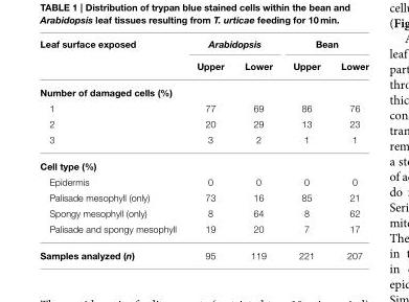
<table><thead><tr><td rowspan="2">Leaf surface exposed</td><td colspan="2">Arabidopsis</td><td colspan="2">Bean</td></tr><tr><td>Upper</td><td>Lower</td><td>Upper</td><td>Lower</td></tr></thead><tbody><tr><td colspan="5">Number of damaged cells (%)</td></tr><tr><td>1</td><td>77</td><td>69</td><td>86</td><td>76</td></tr><tr><td>2</td><td>20</td><td>29</td><td>13</td><td>23</td></tr><tr><td>3</td><td>3</td><td>2</td><td>1</td><td>1</td></tr><tr><td colspan="5">Cell type (%)</td></tr><tr><td>Epidermis</td><td>0</td><td>0</td><td>0</td><td>0</td></tr><tr><td>Palisade mesophyll (only)</td><td>73</td><td>16</td><td>85</td><td>21</td></tr><tr><td>Spongy mesophyll (only)</td><td>8</td><td>64</td><td>8</td><td>62</td></tr><tr><td>Palisade and spongy mesophyll</td><td>19</td><td>20</td><td>7</td><td>17</td></tr><tr><td>Samples analyzed (n)</td><td>95</td><td>119</td><td>221</td><td>207</td></tr></tbody></table>